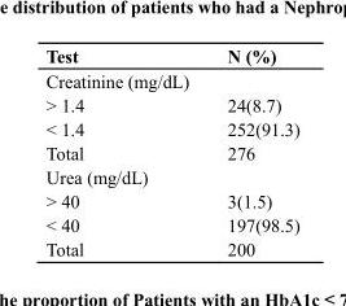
<table><thead><tr><td>Test</td><td>N (%)</td></tr></thead><tbody><tr><td colspan="2">Creatinine (mg/dL)</td></tr><tr><td>&gt; 1.4</td><td>24(8.7)</td></tr><tr><td>&lt; 1.4</td><td>252(91.3)</td></tr><tr><td>Total</td><td>276</td></tr><tr><td colspan="2">Urea (mg/dL)</td></tr><tr><td>&gt; 40</td><td>3(1.5)</td></tr><tr><td>&lt; 40</td><td>197(98.5)</td></tr><tr><td>Total</td><td>200</td></tr></tbody></table>